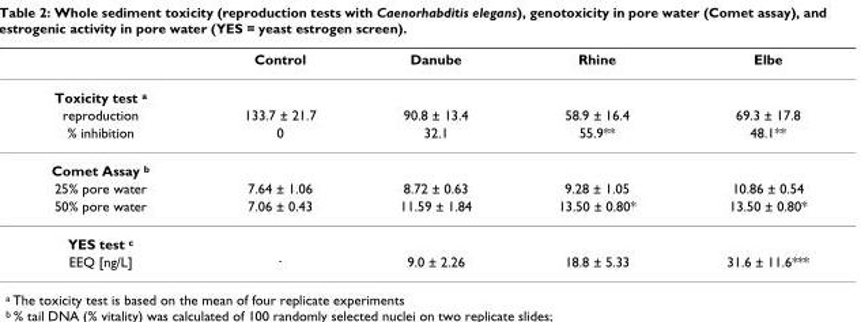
<table><thead><tr><td></td><td>Control</td><td>Danube</td><td>Rhine</td><td>Elbe</td></tr></thead><tbody><tr><td colspan="5">Toxicity test <sup>a</sup></td></tr><tr><td>reproduction</td><td>133.7 ± 21.7</td><td>90.8 ± 13.4</td><td>58.9 ± 16.4</td><td>69.3 ± 17.8</td></tr><tr><td>% inhibition</td><td>0</td><td>32.1</td><td>55.9**</td><td>48.1**</td></tr><tr><td colspan="5">Comet Assay <sup>b</sup></td></tr><tr><td>25% pore water</td><td>7.64 ± 1.06</td><td>8.72 ± 0.63</td><td>9.28 ± 1.05</td><td>10.86 ± 0.54</td></tr><tr><td>50% pore water</td><td>7.06 ± 0.43</td><td>11.59 ± 1.84</td><td>13.50 ± 0.80*</td><td>13.50 ± 0.80*</td></tr><tr><td colspan="5">YES test <sup>c</sup></td></tr><tr><td>EEQ [ng/L]</td><td><sup>-</sup></td><td>9.0 ± 2.26</td><td>18.8 ± 5.33</td><td>31.6 ± 11.6***</td></tr></tbody></table>